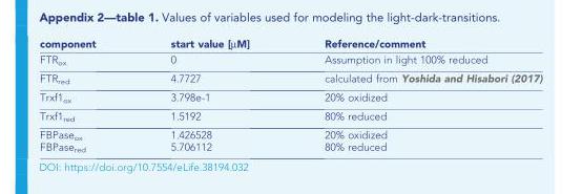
<table><thead><tr><td>component</td><td>start value [µM]</td><td>Reference/comment</td></tr></thead><tbody><tr><td>FTR<sub>ox</sub></td><td>0</td><td>Assumption in light 100% reduced</td></tr><tr><td>FTR<sub>red</sub></td><td>4.7727</td><td>calculated from Yoshida and Hisabori (2017)</td></tr><tr><td>Trxf1<sub>ox</sub></td><td>3.798e-1</td><td>20% oxidized</td></tr><tr><td>Trxf1<sub>red</sub></td><td>1.5192</td><td>80% reduced</td></tr><tr><td>FBPase<sub>ox</sub> FBPase<sub>red</sub></td><td>1.426528 5.706112</td><td>20% oxidized 80% reduced</td></tr></tbody></table>